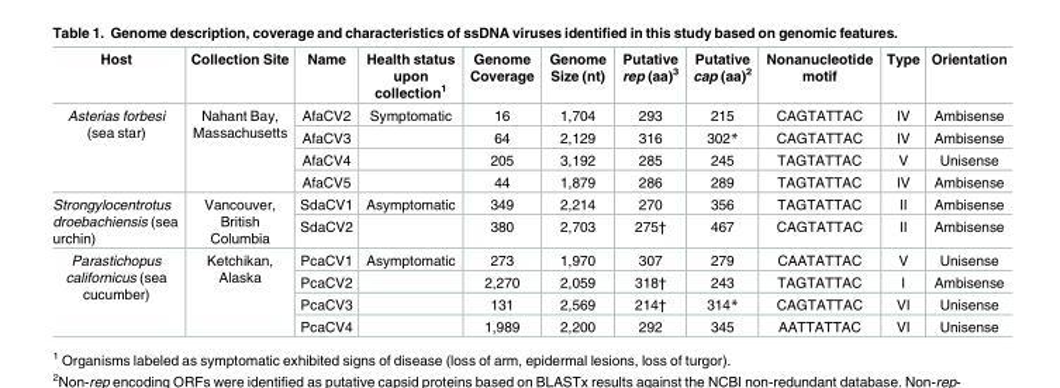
<table><thead><tr><td>Host</td><td>Collection Site</td><td>Name</td><td>Health status upon collection<sup>1</sup></td><td>Genome Coverage</td><td>Genome Size (nt)</td><td>Putative rep (aa)<sup>3</sup></td><td>Putative cap (aa)<sup>2</sup></td><td>Nonanucleotide motif</td><td>Type</td><td>Orientation</td></tr></thead><tbody><tr><td rowspan="4">Asterias forbesi (sea star)</td><td rowspan="4">Nahant Bay, Massachusetts</td><td>AfaCV2</td><td>Symptomatic</td><td>16</td><td>1,704</td><td>293</td><td>215</td><td>CAGTATTAC</td><td>IV</td><td>Ambisense</td></tr><tr><td>AfaCV3</td><td></td><td>64</td><td>2,129</td><td>316</td><td>302*</td><td>CAGTATTAC</td><td>IV</td><td>Ambisense</td></tr><tr><td>AfaCV4</td><td></td><td>205</td><td>3,192</td><td>285</td><td>245</td><td>TAGTATTAC</td><td>V</td><td>Unisense</td></tr><tr><td>AfaCV5</td><td></td><td>44</td><td>1,879</td><td>286</td><td>289</td><td>TAGTATTAC</td><td>IV</td><td>Ambisense</td></tr><tr><td rowspan="2">Strongylocentrotus droebachiensis (sea urchin)</td><td rowspan="2">Vancouver, British Columbia</td><td>SdaCV1</td><td>Asymptomatic</td><td>349</td><td>2,214</td><td>270</td><td>356</td><td>TAGTATTAC</td><td>II</td><td>Ambisense</td></tr><tr><td>SdaCV2</td><td></td><td>380</td><td>2,703</td><td>275†</td><td>467</td><td>CAGTATTAC</td><td>II</td><td>Ambisense</td></tr><tr><td rowspan="4">Parastichopus californicus (sea cucumber)</td><td rowspan="4">Ketchikan, Alaska</td><td>PcaCV1</td><td>Asymptomatic</td><td>273</td><td>1,970</td><td>307</td><td>279</td><td>CAATATTAC</td><td>V</td><td>Unisense</td></tr><tr><td>PcaCV2</td><td></td><td>2,270</td><td>2,059</td><td>318†</td><td>243</td><td>TAGTATTAC</td><td>I</td><td>Ambisense</td></tr><tr><td>PcaCV3</td><td></td><td>131</td><td>2,569</td><td>214†</td><td>314*</td><td>CAGTATTAC</td><td>VI</td><td>Unisense</td></tr><tr><td>PcaCV4</td><td></td><td>1,989</td><td>2,200</td><td>292</td><td>345</td><td>AATTATTAC</td><td>VI</td><td>Unisense</td></tr></tbody></table>